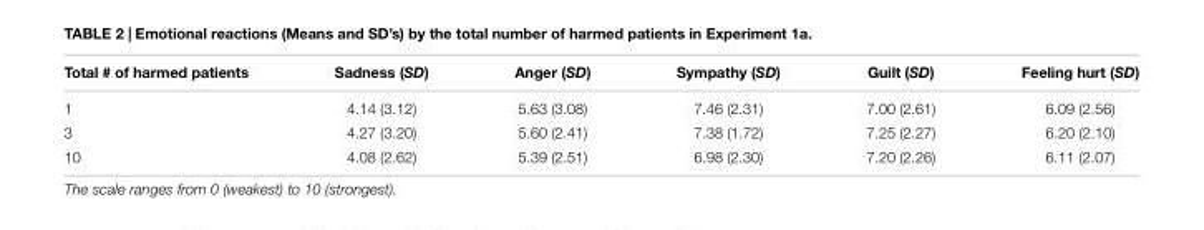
<table><thead><tr><td>Total # of harmed patients</td><td>Sadness (SD)</td><td>Anger (SD)</td><td>Sympathy (SD)</td><td>Guilt (SD)</td><td>Feeling hurt (SD)</td></tr></thead><tbody><tr><td>1</td><td>4.14 (3.12)</td><td>5.63 (3.08)</td><td>7.46 (2.31)</td><td>7.00 (2.61)</td><td>6.09 (2.56)</td></tr><tr><td>3</td><td>4.27 (3.20)</td><td>5.60 (2.41)</td><td>7.38 (1.72)</td><td>7.25 (2.27)</td><td>6.20 (2.10)</td></tr><tr><td>10</td><td>4.08 (2.62)</td><td>5.39 (2.51)</td><td>6.98 (2.30)</td><td>7.20 (2.26)</td><td>6.11 (2.07)</td></tr></tbody></table>